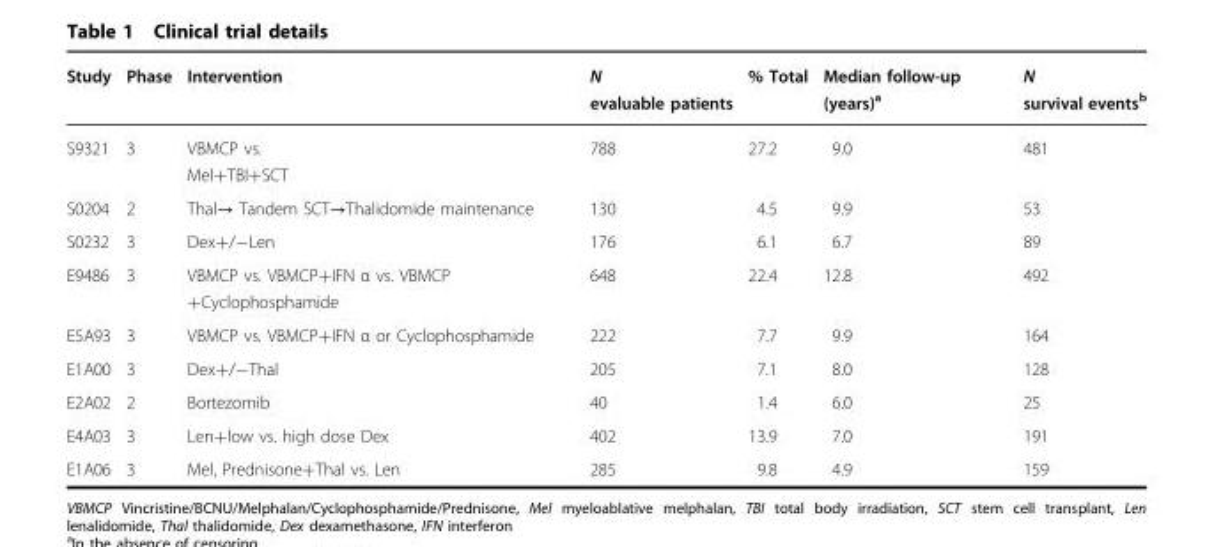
<table><thead><tr><td>Study</td><td>Phase</td><td>Intervention</td><td>N evaluable patients</td><td>% Total</td><td>Median follow-up (years)<sup>a</sup></td><td>N survival events<sup>b</sup></td></tr></thead><tbody><tr><td>S9321</td><td>3</td><td>VBMCP vs. Mel+TBI+SCT</td><td>788</td><td>27.2</td><td>9.0</td><td>481</td></tr><tr><td>S0204</td><td>2</td><td>Thal→ Tandem SCT→Thalidomide maintenance</td><td>130</td><td>4.5</td><td>9.9</td><td>53</td></tr><tr><td>S0232</td><td>3</td><td>Dex+/−Len</td><td>176</td><td>6.1</td><td>6.7</td><td>89</td></tr><tr><td>E9486</td><td>3</td><td>VBMCP vs. VBMCP+IFN α vs. VBMCP +Cyclophosphamide</td><td>648</td><td>22.4</td><td>12.8</td><td>492</td></tr><tr><td>E5A93</td><td>3</td><td>VBMCP vs. VBMCP+IFN α or Cyclophosphamide</td><td>222</td><td>7.7</td><td>9.9</td><td>164</td></tr><tr><td>E1A00</td><td>3</td><td>Dex+/−Thal</td><td>205</td><td>7.1</td><td>8.0</td><td>128</td></tr><tr><td>E2A02</td><td>2</td><td>Bortezomib</td><td>40</td><td>1.4</td><td>6.0</td><td>25</td></tr><tr><td>E4A03</td><td>3</td><td>Len+low vs. high dose Dex</td><td>402</td><td>13.9</td><td>7.0</td><td>191</td></tr><tr><td>E1A06</td><td>3</td><td>Mel, Prednisone+Thal vs. Len</td><td>285</td><td>9.8</td><td>4.9</td><td>159</td></tr></tbody></table>